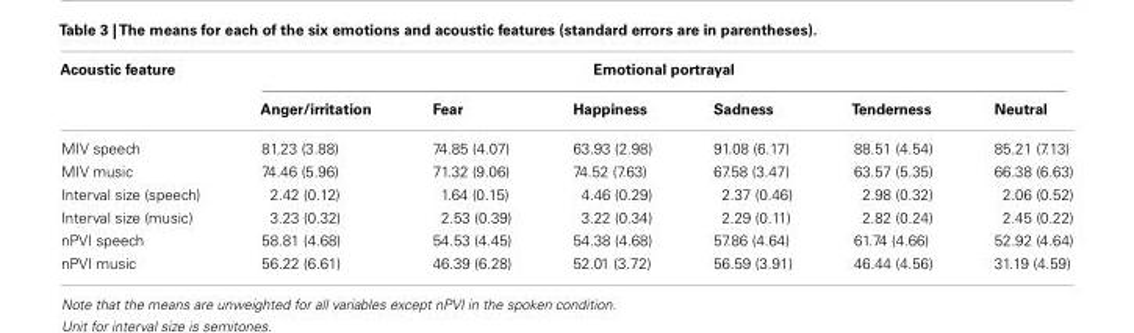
<table><thead><tr><td rowspan="2">Acoustic feature</td><td colspan="6">Emotional portrayal</td></tr><tr><td>Anger/irritation</td><td>Fear</td><td>Happiness</td><td>Sadness</td><td>Tenderness</td><td>Neutral</td></tr></thead><tbody><tr><td>MIV speech</td><td>81.23 (3.88)</td><td>74.85 (4.07)</td><td>63.93 (2.98)</td><td>91.08 (6.17)</td><td>88.51 (4.54)</td><td>85.21 (7.13)</td></tr><tr><td>MIV music</td><td>74.46 (5.96)</td><td>71.32 (9.06)</td><td>74.52 (7.63)</td><td>67.58 (3.47)</td><td>63.57 (5.35)</td><td>66.38 (6.63)</td></tr><tr><td>Interval size (speech)</td><td>2.42 (0.12)</td><td>1.64 (0.15)</td><td>4.46 (0.29)</td><td>2.37 (0.46)</td><td>2.98 (0.32)</td><td>2.06 (0.52)</td></tr><tr><td>Interval size (music)</td><td>3.23 (0.32)</td><td>2.53 (0.39)</td><td>3.22 (0.34)</td><td>2.29 (0.11)</td><td>2.82 (0.24)</td><td>2.45 (0.22)</td></tr><tr><td>nPVI speech</td><td>58.81 (4.68)</td><td>54.53 (4.45)</td><td>54.38 (4.68)</td><td>57.86 (4.64)</td><td>61.74 (4.66)</td><td>52.92 (4.64)</td></tr><tr><td>nPVI music</td><td>56.22 (6.61)</td><td>46.39 (6.28)</td><td>52.01 (3.72)</td><td>56.59 (3.91)</td><td>46.44 (4.56)</td><td>31.19 (4.59)</td></tr></tbody></table>